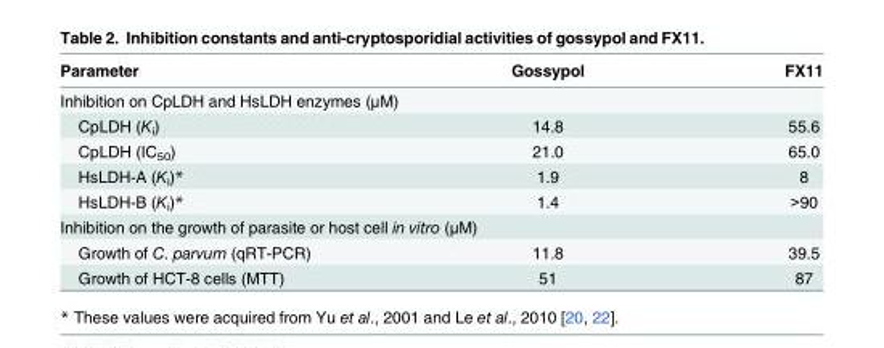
<table><thead><tr><td>Parameter</td><td>Gossypol</td><td>FX11</td></tr></thead><tbody><tr><td colspan="3">Inhibition on CpLDH and HsLDH enzymes (μM)</td></tr><tr><td>CpLDH (K<sub>i</sub>)</td><td>14.8</td><td>55.6</td></tr><tr><td>CpLDH (IC<sub>50</sub>)</td><td>21.0</td><td>65.0</td></tr><tr><td>HsLDH-A (K<sub>i</sub>)*</td><td>1.9</td><td>8</td></tr><tr><td>HsLDH-B (K<sub>i</sub>)*</td><td>1.4</td><td>&gt;90</td></tr><tr><td colspan="3">Inhibition on the growth of parasite or host cell in vitro (μM)</td></tr><tr><td>Growth of C. parvum (qRT-PCR)</td><td>11.8</td><td>39.5</td></tr><tr><td>Growth of HCT-8 cells (MTT)</td><td>51</td><td>87</td></tr></tbody></table>